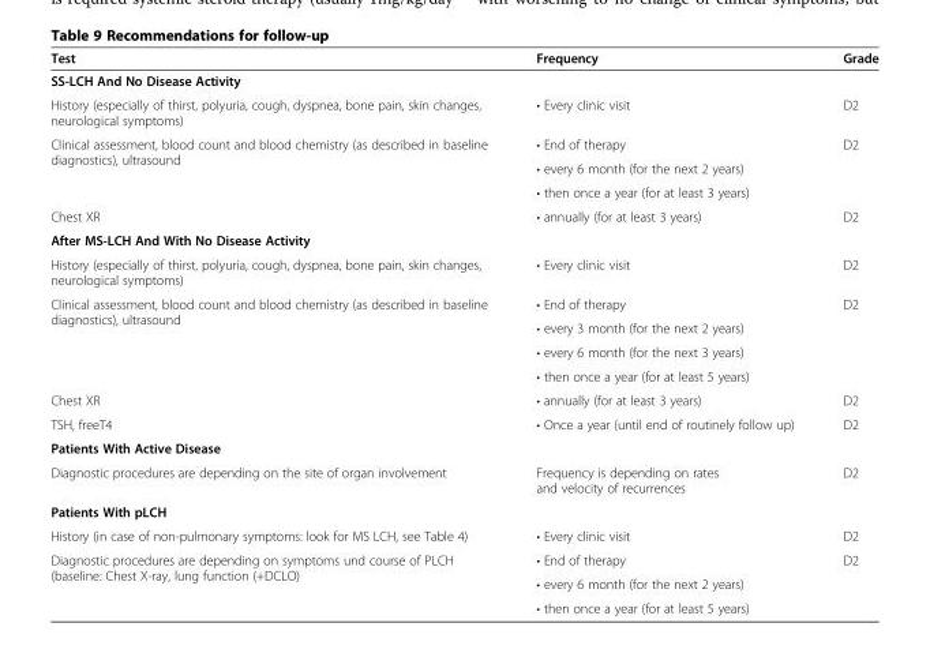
<table><thead><tr><td>Test</td><td>Frequency</td><td>Grade</td></tr></thead><tbody><tr><td colspan="3">SS-LCH And No Disease Activity</td></tr><tr><td>History (especially of thirst, polyuria, cough, dyspnea, bone pain, skin changes, neurological symptoms)</td><td>• Every clinic visit</td><td>D2</td></tr><tr><td rowspan="3">Clinical assessment, blood count and blood chemistry (as described in baseline diagnostics), ultrasound</td><td>• End of therapy</td><td rowspan="3">D2</td></tr><tr><td>• every 6 month (for the next 2 years)</td></tr><tr><td>• then once a year (for at least 3 years)</td></tr><tr><td>Chest XR</td><td>• annually (for at least 3 years)</td><td>D2</td></tr><tr><td colspan="3">After MS-LCH And With No Disease Activity</td></tr><tr><td>History (especially of thirst, polyuria, cough, dyspnea, bone pain, skin changes, neurological symptoms)</td><td>• Every clinic visit</td><td>D2</td></tr><tr><td rowspan="4">Clinical assessment, blood count and blood chemistry (as described in baseline diagnostics), ultrasound</td><td>• End of therapy</td><td rowspan="4">D2</td></tr><tr><td>• every 3 month (for the next 2 years)</td></tr><tr><td>• every 6 month (for the next 3 years)</td></tr><tr><td>• then once a year (for at least 5 years)</td></tr><tr><td>Chest XR</td><td>• annually (for at least 3 years)</td><td>D2</td></tr><tr><td>TSH, freeT4</td><td>• Once a year (until end of routinely follow up)</td><td>D2</td></tr><tr><td colspan="3">Patients With Active Disease</td></tr><tr><td>Diagnostic procedures are depending on the site of organ involvement</td><td>Frequency is depending on rates and velocity of recurrences</td><td>D2</td></tr><tr><td colspan="3">Patients With pLCH</td></tr><tr><td>History (in case of non-pulmonary symptoms: look for MS LCH, see Table 4)</td><td>• Every clinic visit</td><td>D2</td></tr><tr><td rowspan="3">Diagnostic procedures are depending on symptoms und course of PLCH (baseline: Chest X-ray, lung function (+DCLO)</td><td>• End of therapy</td><td rowspan="3">D2</td></tr><tr><td>• every 6 month (for the next 2 years)</td></tr><tr><td>• then once a year (for at least 5 years)</td></tr></tbody></table>